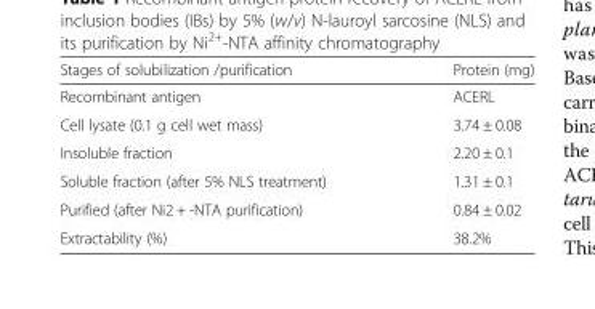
<table><thead><tr><td>Stages of solubilization /purification</td><td>Protein (mg)</td></tr></thead><tbody><tr><td>Recombinant antigen</td><td>ACERL</td></tr><tr><td>Cell lysate (0.1 g cell wet mass)</td><td>3.74 ± 0.08</td></tr><tr><td>Insoluble fraction</td><td>2.20 ± 0.1</td></tr><tr><td>Soluble fraction (after 5% NLS treatment)</td><td>1.31 ± 0.1</td></tr><tr><td>Purified (after Ni2 + -NTA purification)</td><td>0.84 ± 0.02</td></tr><tr><td>Extractability (%)</td><td>38.2%</td></tr></tbody></table>